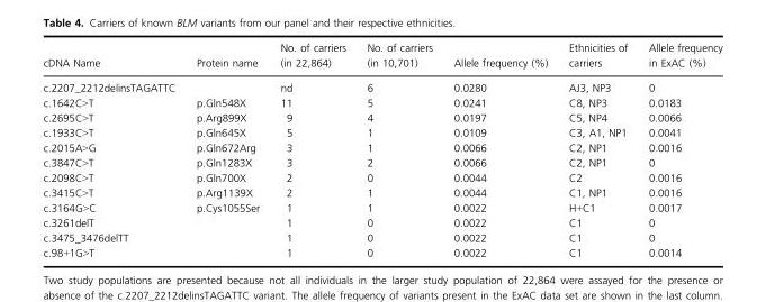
<table><thead><tr><td>cDNA Name</td><td>Protein name</td><td>No. of carriers (in 22,864)</td><td>No. of carriers (in 10,701)</td><td>Allele frequency (%)</td><td>Ethnicities of carriers</td><td>Allele frequency in ExAC (%)</td></tr></thead><tbody><tr><td>c.2207_2212delinsTAGATTC</td><td></td><td>nd</td><td>6</td><td>0.0280</td><td>AJ3, NP3</td><td>0</td></tr><tr><td>c.1642C&gt;T</td><td>p.Gln548X</td><td>11</td><td>5</td><td>0.0241</td><td>C8, NP3</td><td>0.0183</td></tr><tr><td>c.2695C&gt;T</td><td>p.Arg899X</td><td>9</td><td>4</td><td>0.0197</td><td>C5, NP4</td><td>0.0066</td></tr><tr><td>c.1933C&gt;T</td><td>p.Gln645X</td><td>5</td><td>1</td><td>0.0109</td><td>C3, A1, NP1</td><td>0.0041</td></tr><tr><td>c.2015A&gt;G</td><td>p.Gln672Arg</td><td>3</td><td>1</td><td>0.0066</td><td>C2, NP1</td><td>0.0016</td></tr><tr><td>c.3847C&gt;T</td><td>p.Gln1283X</td><td>3</td><td>2</td><td>0.0066</td><td>C2, NP1</td><td>0</td></tr><tr><td>c.2098C&gt;T</td><td>p.Gln700X</td><td>2</td><td>0</td><td>0.0044</td><td>C2</td><td>0.0016</td></tr><tr><td>c.3415C&gt;T</td><td>p.Arg1139X</td><td>2</td><td>1</td><td>0.0044</td><td>C1, NP1</td><td>0.0016</td></tr><tr><td>c.3164G&gt;C</td><td>p.Cys1055Ser</td><td>1</td><td>1</td><td>0.0022</td><td>H+C1</td><td>0.0017</td></tr><tr><td>c.3261delT</td><td></td><td>1</td><td>0</td><td>0.0022</td><td>C1</td><td>0</td></tr><tr><td>c.3475_3476delTT</td><td></td><td>1</td><td>0</td><td>0.0022</td><td>C1</td><td>0</td></tr><tr><td>c.98+1G&gt;T</td><td></td><td>1</td><td>0</td><td>0.0022</td><td>C1</td><td>0.0014</td></tr></tbody></table>